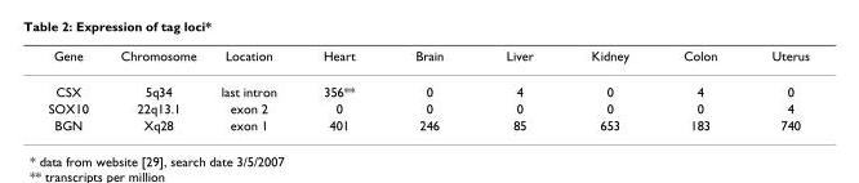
<table><thead><tr><td>Gene</td><td>Chromosome</td><td>Location</td><td>Heart</td><td>Brain</td><td>Liver</td><td>Kidney</td><td>Colon</td><td>Uterus</td></tr></thead><tbody><tr><td>CSX</td><td>5q34</td><td>last intron</td><td>356**</td><td>0</td><td>4</td><td>0</td><td>4</td><td>0</td></tr><tr><td>SOX10</td><td>22q13.1</td><td>exon 2</td><td>0</td><td>0</td><td>0</td><td>0</td><td>0</td><td>4</td></tr><tr><td>BGN</td><td>Xq28</td><td>exon 1</td><td>401</td><td>246</td><td>85</td><td>653</td><td>183</td><td>740</td></tr></tbody></table>